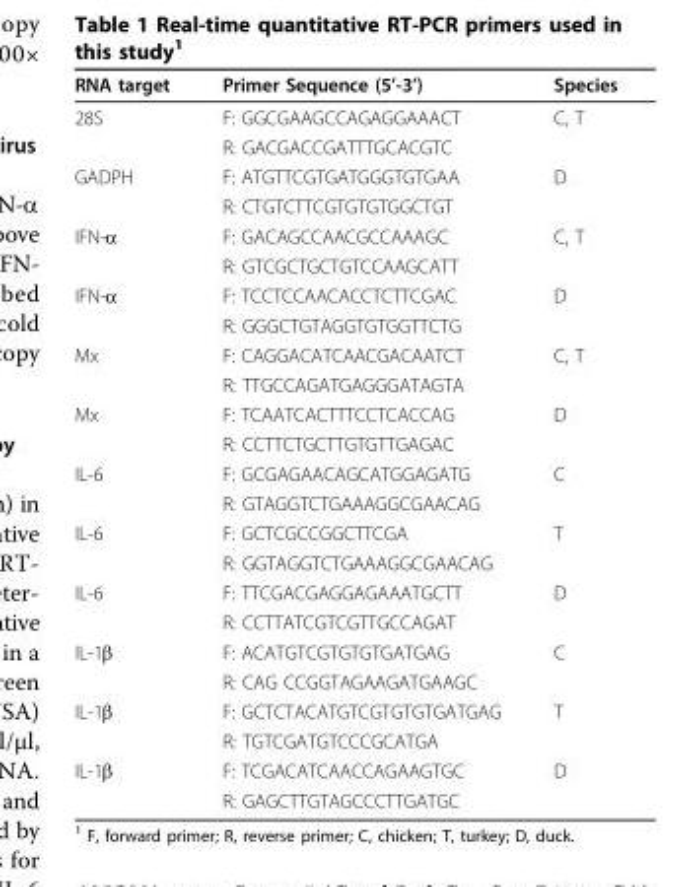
<table><thead><tr><td>RNA target</td><td>Primer Sequence (5’-3’)</td><td>Species</td></tr></thead><tbody><tr><td rowspan="2">28S</td><td>F: GGCGAAGCCAGAGGAAACT</td><td>C, T</td></tr><tr><td>R: GACGACCGATTTGCACGTC</td><td></td></tr><tr><td rowspan="2">GADPH</td><td>F: ATGTTCGTGATGGGTGTGAA</td><td>D</td></tr><tr><td>R: CTGTCTTCGTGTGTGGCTGT</td><td></td></tr><tr><td rowspan="2">IFN-α</td><td>F: GACAGCCAACGCCAAAGC</td><td>C, T</td></tr><tr><td>R: GTCGCTGCTGTCCAAGCATT</td><td></td></tr><tr><td rowspan="2">IFN-α</td><td>F: TCCTCCAACACCTCTTCGAC</td><td>D</td></tr><tr><td>R: GGGCTGTAGGTGTGGTTCTG</td><td></td></tr><tr><td rowspan="2">Mx</td><td>F: CAGGACATCAACGACAATCT</td><td>C, T</td></tr><tr><td>R: TTGCCAGATGAGGGATAGTA</td><td></td></tr><tr><td rowspan="2">Mx</td><td>F: TCAATCACTTTCCTCACCAG</td><td>D</td></tr><tr><td>R: CCTTCTGCTTGTGTTGAGAC</td><td></td></tr><tr><td rowspan="2">IL-6</td><td>F: GCGAGAACAGCATGGAGATG</td><td>C</td></tr><tr><td>R: GTAGGTCTGAAAGGCGAACAG</td><td></td></tr><tr><td rowspan="2">IL-6</td><td>F: GCTCGCCGGCTTCGA</td><td>T</td></tr><tr><td>R: GGTAGGTCTGAAAGGCGAACAG</td><td></td></tr><tr><td rowspan="2">IL-6</td><td>F: TTCGACGAGGAGAAATGCTT</td><td>D</td></tr><tr><td>R: CCTTATCGTCGTTGCCAGAT</td><td></td></tr><tr><td rowspan="2">IL-1β</td><td>F: ACATGTCGTGTGTGATGAG</td><td>C</td></tr><tr><td>R: CAG CCGGTAGAAGATGAAGC</td><td></td></tr><tr><td rowspan="2">IL-1β</td><td>F: GCTCTACATGTCGTGTGTGATGAG</td><td>T</td></tr><tr><td>R: TGTCGATGTCCCGCATGA</td><td></td></tr><tr><td rowspan="2">IL-1β</td><td>F: TCGACATCAACCAGAAGTGC</td><td>D</td></tr><tr><td>R: GAGCTTGTAGCCCTTGATGC</td><td></td></tr></tbody></table>